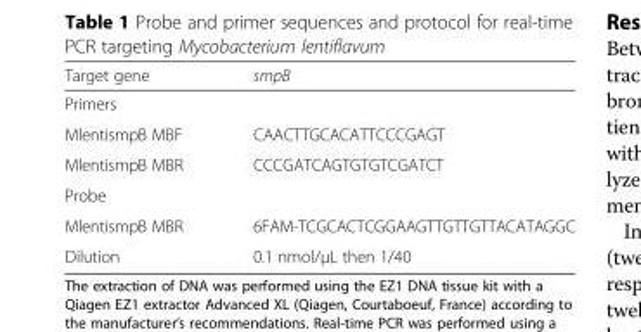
<table><thead><tr><td>Target gene</td><td>smpB</td></tr></thead><tbody><tr><td colspan="2">Primers</td></tr><tr><td>MlentismpB MBF</td><td>CAACTTGCACATTCCCGAGT</td></tr><tr><td>MlentismpB MBR</td><td>CCCGATCAGTGTGTCGATCT</td></tr><tr><td colspan="2">Probe</td></tr><tr><td>MlentismpB MBR</td><td>6FAM-TCGCACTCGGAAGTTGTTGTTACATAGGC</td></tr><tr><td>Dilution</td><td>0.1 nmol/μL then 1/40</td></tr></tbody></table>